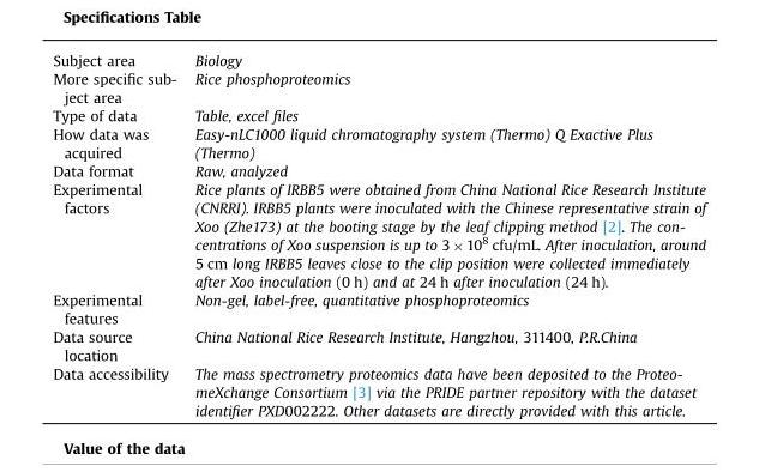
<table><tbody><tr><td>Subject area</td><td>Biology</td></tr><tr><td>More specific sub- ject area</td><td>Rice phosphoproteomics</td></tr><tr><td>Type of data</td><td>Table, excel files</td></tr><tr><td>How data was acquired</td><td>Easy-nLC1000 liquid chromatography system (Thermo) Q Exactive Plus (Thermo)</td></tr><tr><td>Data format</td><td>Raw, analyzed</td></tr><tr><td>Experimental factors</td><td>Rice plants of IRBB5 were obtained from China National Rice Research Institute (CNRRI). IRBB5 plants were inoculated with the Chinese representative strain of Xoo (Zhe173) at the booting stage by the leaf clipping method [2]. The con- centrations of Xoo suspension is up to 3 � 108 cfu/mL. After inoculation, around 5 cm long IRBB5 leaves close to the clip position were collected immediately after Xoo inoculation (0 h) and at 24 h after inoculation (24 h).</td></tr><tr><td>Experimental features</td><td>Non-gel, label-free, quantitative phosphoproteomics</td></tr><tr><td>Data source location</td><td>China National Rice Research Institute, Hangzhou, 311400, P.R.China</td></tr><tr><td>Data accessibility</td><td>The mass spectrometry proteomics data have been deposited to the Proteo- meXchange Consortium [3] via the PRIDE partner repository with the dataset identifier PXD002222. Other datasets are directly provided with this article.</td></tr></tbody></table>